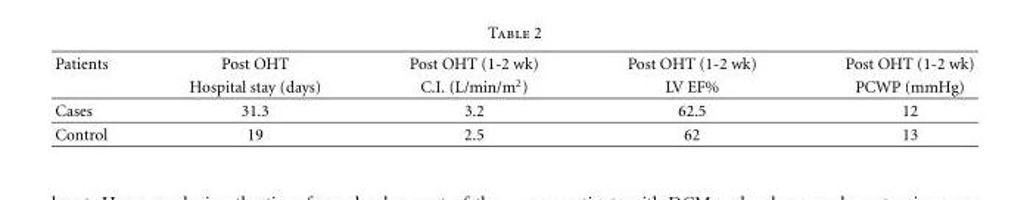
<table><thead><tr><td rowspan="2">Patients</td><td rowspan="2">Post OHT Hospital stay (days)</td><td rowspan="2">Post OHT (1-2 wk) C.I. (L/min/m<sup>2</sup>)</td><td rowspan="2">Post OHT (1-2 wk) LV EF%</td><td rowspan="2">Post OHT (1-2 wk) PCWP (mmHg)</td></tr><tr></tr></thead><tbody><tr><td>Cases</td><td>31.3</td><td>3.2</td><td>62.5</td><td>12</td></tr><tr><td>Control</td><td>19</td><td>2.5</td><td>62</td><td>13</td></tr></tbody></table>